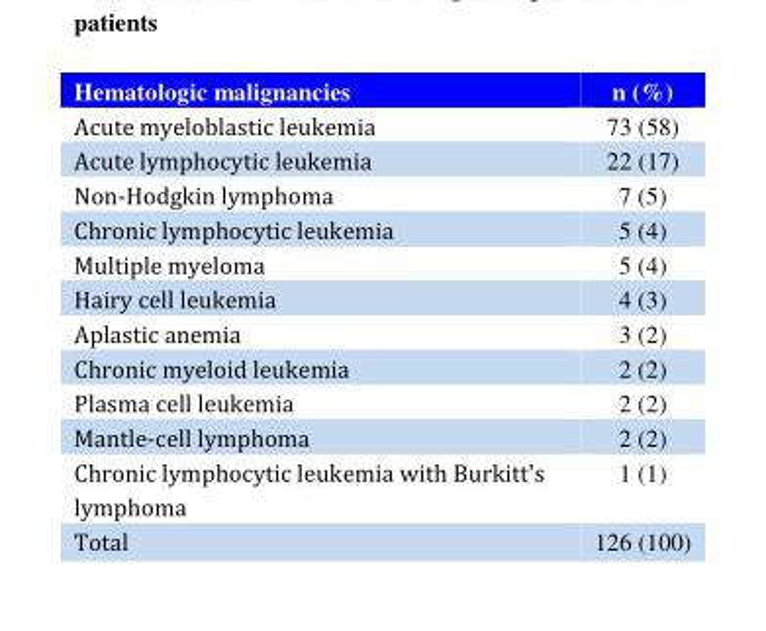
<table><thead><tr><td>Hematologic malignancies</td><td>n (%)</td></tr></thead><tbody><tr><td>Acute myeloblastic leukemia</td><td>73 (58)</td></tr><tr><td>Acute lymphocytic leukemia</td><td>22 (17)</td></tr><tr><td>Non-Hodgkin lymphoma</td><td>7 (5)</td></tr><tr><td>Chronic lymphocytic leukemia</td><td>5 (4)</td></tr><tr><td>Multiple myeloma</td><td>5 (4)</td></tr><tr><td>Hairy cell leukemia</td><td>4 (3)</td></tr><tr><td>Aplastic anemia</td><td>3 (2)</td></tr><tr><td>Chronic myeloid leukemia</td><td>2 (2)</td></tr><tr><td>Plasma cell leukemia</td><td>2 (2)</td></tr><tr><td>Mantle-cell lymphoma</td><td>2 (2)</td></tr><tr><td>Chronic lymphocytic leukemia with Burkitt&#x27;s lymphoma</td><td>1 (1)</td></tr><tr><td>Total</td><td>126 (100)</td></tr></tbody></table>